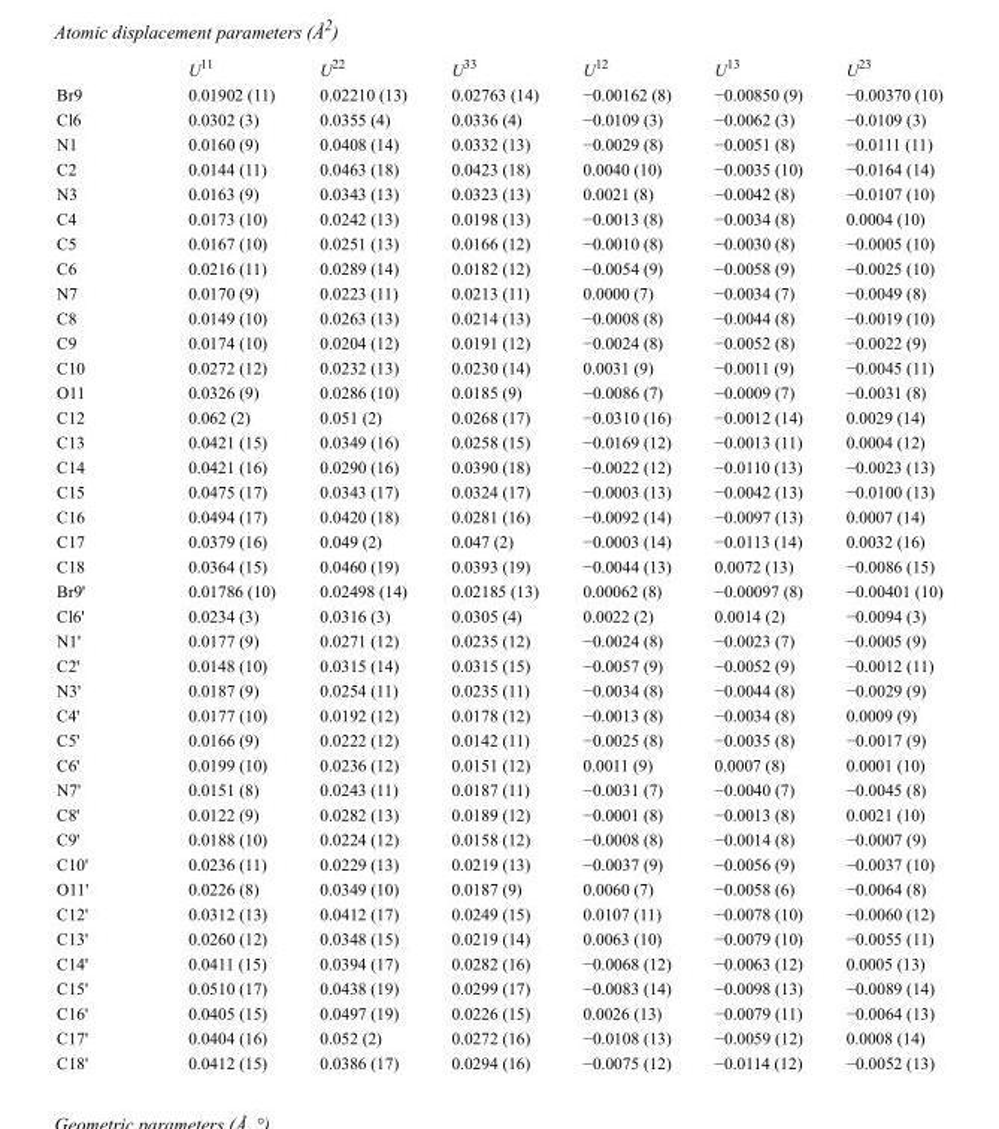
<table><thead><tr><td></td><td>U<sup>11</sup></td><td>U<sup>22</sup></td><td>U<sup>33</sup></td><td>U<sup>12</sup></td><td>U<sup>13</sup></td><td>U<sup>23</sup></td></tr></thead><tbody><tr><td>Br9</td><td>0.01902 (11)</td><td>0.02210 (13)</td><td>0.02763 (14)</td><td>−0.00162 (8)</td><td>−0.00850 (9)</td><td>−0.00370 (10)</td></tr><tr><td>Cl6</td><td>0.0302 (3)</td><td>0.0355 (4)</td><td>0.0336 (4)</td><td>−0.0109 (3)</td><td>−0.0062 (3)</td><td>−0.0109 (3)</td></tr><tr><td>N1</td><td>0.0160 (9)</td><td>0.0408 (14)</td><td>0.0332 (13)</td><td>−0.0029 (8)</td><td>−0.0051 (8)</td><td>−0.0111 (11)</td></tr><tr><td>C2</td><td>0.0144 (11)</td><td>0.0463 (18)</td><td>0.0423 (18)</td><td>0.0040 (10)</td><td>−0.0035 (10)</td><td>−0.0164 (14)</td></tr><tr><td>N3</td><td>0.0163 (9)</td><td>0.0343 (13)</td><td>0.0323 (13)</td><td>0.0021 (8)</td><td>−0.0042 (8)</td><td>−0.0107 (10)</td></tr><tr><td>C4</td><td>0.0173 (10)</td><td>0.0242 (13)</td><td>0.0198 (13)</td><td>−0.0013 (8)</td><td>−0.0034 (8)</td><td>0.0004 (10)</td></tr><tr><td>C5</td><td>0.0167 (10)</td><td>0.0251 (13)</td><td>0.0166 (12)</td><td>−0.0010 (8)</td><td>−0.0030 (8)</td><td>−0.0005 (10)</td></tr><tr><td>C6</td><td>0.0216 (11)</td><td>0.0289 (14)</td><td>0.0182 (12)</td><td>−0.0054 (9)</td><td>−0.0058 (9)</td><td>−0.0025 (10)</td></tr><tr><td>N7</td><td>0.0170 (9)</td><td>0.0223 (11)</td><td>0.0213 (11)</td><td>0.0000 (7)</td><td>−0.0034 (7)</td><td>−0.0049 (8)</td></tr><tr><td>C8</td><td>0.0149 (10)</td><td>0.0263 (13)</td><td>0.0214 (13)</td><td>−0.0008 (8)</td><td>−0.0044 (8)</td><td>−0.0019 (10)</td></tr><tr><td>C9</td><td>0.0174 (10)</td><td>0.0204 (12)</td><td>0.0191 (12)</td><td>−0.0024 (8)</td><td>−0.0052 (8)</td><td>−0.0022 (9)</td></tr><tr><td>C10</td><td>0.0272 (12)</td><td>0.0232 (13)</td><td>0.0230 (14)</td><td>0.0031 (9)</td><td>−0.0011 (9)</td><td>−0.0045 (11)</td></tr><tr><td>O11</td><td>0.0326 (9)</td><td>0.0286 (10)</td><td>0.0185 (9)</td><td>−0.0086 (7)</td><td>−0.0009 (7)</td><td>−0.0031 (8)</td></tr><tr><td>C12</td><td>0.062 (2)</td><td>0.051 (2)</td><td>0.0268 (17)</td><td>−0.0310 (16)</td><td>−0.0012 (14)</td><td>0.0029 (14)</td></tr><tr><td>C13</td><td>0.0421 (15)</td><td>0.0349 (16)</td><td>0.0258 (15)</td><td>−0.0169 (12)</td><td>−0.0013 (11)</td><td>0.0004 (12)</td></tr><tr><td>C14</td><td>0.0421 (16)</td><td>0.0290 (16)</td><td>0.0390 (18)</td><td>−0.0022 (12)</td><td>−0.0110 (13)</td><td>−0.0023 (13)</td></tr><tr><td>C15</td><td>0.0475 (17)</td><td>0.0343 (17)</td><td>0.0324 (17)</td><td>−0.0003 (13)</td><td>−0.0042 (13)</td><td>−0.0100 (13)</td></tr><tr><td>C16</td><td>0.0494 (17)</td><td>0.0420 (18)</td><td>0.0281 (16)</td><td>−0.0092 (14)</td><td>−0.0097 (13)</td><td>0.0007 (14)</td></tr><tr><td>C17</td><td>0.0379 (16)</td><td>0.049 (2)</td><td>0.047 (2)</td><td>−0.0003 (14)</td><td>−0.0113 (14)</td><td>0.0032 (16)</td></tr><tr><td>C18</td><td>0.0364 (15)</td><td>0.0460 (19)</td><td>0.0393 (19)</td><td>−0.0044 (13)</td><td>0.0072 (13)</td><td>−0.0086 (15)</td></tr><tr><td>Br9&#x27;</td><td>0.01786 (10)</td><td>0.02498 (14)</td><td>0.02185 (13)</td><td>0.00062 (8)</td><td>−0.00097 (8)</td><td>−0.00401 (10)</td></tr><tr><td>Cl6&#x27;</td><td>0.0234 (3)</td><td>0.0316 (3)</td><td>0.0305 (4)</td><td>0.0022 (2)</td><td>0.0014 (2)</td><td>−0.0094 (3)</td></tr><tr><td>N1&#x27;</td><td>0.0177 (9)</td><td>0.0271 (12)</td><td>0.0235 (12)</td><td>−0.0024 (8)</td><td>−0.0023 (7)</td><td>−0.0005 (9)</td></tr><tr><td>C2&#x27;</td><td>0.0148 (10)</td><td>0.0315 (14)</td><td>0.0315 (15)</td><td>−0.0057 (9)</td><td>−0.0052 (9)</td><td>−0.0012 (11)</td></tr><tr><td>N3&#x27;</td><td>0.0187 (9)</td><td>0.0254 (11)</td><td>0.0235 (11)</td><td>−0.0034 (8)</td><td>−0.0044 (8)</td><td>−0.0029 (9)</td></tr><tr><td>C4&#x27;</td><td>0.0177 (10)</td><td>0.0192 (12)</td><td>0.0178 (12)</td><td>−0.0013 (8)</td><td>−0.0034 (8)</td><td>0.0009 (9)</td></tr><tr><td>C5&#x27;</td><td>0.0166 (9)</td><td>0.0222 (12)</td><td>0.0142 (11)</td><td>−0.0025 (8)</td><td>−0.0035 (8)</td><td>−0.0017 (9)</td></tr><tr><td>C6&#x27;</td><td>0.0199 (10)</td><td>0.0236 (12)</td><td>0.0151 (12)</td><td>0.0011 (9)</td><td>0.0007 (8)</td><td>0.0001 (10)</td></tr><tr><td>N7&#x27;</td><td>0.0151 (8)</td><td>0.0243 (11)</td><td>0.0187 (11)</td><td>−0.0031 (7)</td><td>−0.0040 (7)</td><td>−0.0045 (8)</td></tr><tr><td>C8&#x27;</td><td>0.0122 (9)</td><td>0.0282 (13)</td><td>0.0189 (12)</td><td>−0.0001 (8)</td><td>−0.0013 (8)</td><td>0.0021 (10)</td></tr><tr><td>C9&#x27;</td><td>0.0188 (10)</td><td>0.0224 (12)</td><td>0.0158 (12)</td><td>−0.0008 (8)</td><td>−0.0014 (8)</td><td>−0.0007 (9)</td></tr><tr><td>C10&#x27;</td><td>0.0236 (11)</td><td>0.0229 (13)</td><td>0.0219 (13)</td><td>−0.0037 (9)</td><td>−0.0056 (9)</td><td>−0.0037 (10)</td></tr><tr><td>O11&#x27;</td><td>0.0226 (8)</td><td>0.0349 (10)</td><td>0.0187 (9)</td><td>0.0060 (7)</td><td>−0.0058 (6)</td><td>−0.0064 (8)</td></tr><tr><td>C12&#x27;</td><td>0.0312 (13)</td><td>0.0412 (17)</td><td>0.0249 (15)</td><td>0.0107 (11)</td><td>−0.0078 (10)</td><td>−0.0060 (12)</td></tr><tr><td>C13&#x27;</td><td>0.0260 (12)</td><td>0.0348 (15)</td><td>0.0219 (14)</td><td>0.0063 (10)</td><td>−0.0079 (10)</td><td>−0.0055 (11)</td></tr><tr><td>C14&#x27;</td><td>0.0411 (15)</td><td>0.0394 (17)</td><td>0.0282 (16)</td><td>−0.0068 (12)</td><td>−0.0063 (12)</td><td>0.0005 (13)</td></tr><tr><td>C15&#x27;</td><td>0.0510 (17)</td><td>0.0438 (19)</td><td>0.0299 (17)</td><td>−0.0083 (14)</td><td>−0.0098 (13)</td><td>−0.0089 (14)</td></tr><tr><td>C16&#x27;</td><td>0.0405 (15)</td><td>0.0497 (19)</td><td>0.0226 (15)</td><td>0.0026 (13)</td><td>−0.0079 (11)</td><td>−0.0064 (13)</td></tr><tr><td>C17&#x27;</td><td>0.0404 (16)</td><td>0.052 (2)</td><td>0.0272 (16)</td><td>−0.0108 (13)</td><td>−0.0059 (12)</td><td>0.0008 (14)</td></tr><tr><td>C18&#x27;</td><td>0.0412 (15)</td><td>0.0386 (17)</td><td>0.0294 (16)</td><td>−0.0075 (12)</td><td>−0.0114 (12)</td><td>−0.0052 (13)</td></tr></tbody></table>